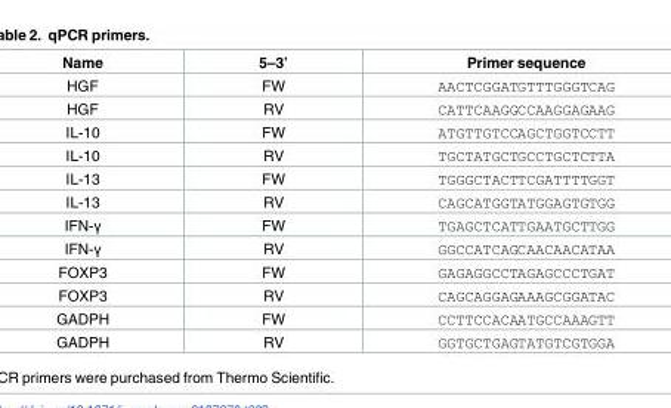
<table><thead><tr><td>Name</td><td>5–3’</td><td>Primer sequence</td></tr></thead><tbody><tr><td>HGF</td><td>FW</td><td>AACTCGGATGTTTGGGTCAG</td></tr><tr><td>HGF</td><td>RV</td><td>CATTCAAGGCCAAGGAGAAG</td></tr><tr><td>IL-10</td><td>FW</td><td>ATGTTGTCCAGCTGGTCCTT</td></tr><tr><td>IL-10</td><td>RV</td><td>TGCTATGCTGCCTGCTCTTA</td></tr><tr><td>IL-13</td><td>FW</td><td>TGGGCTACTTCGATTTTGGT</td></tr><tr><td>IL-13</td><td>RV</td><td>CAGCATGGTATGGAGTGTGG</td></tr><tr><td>IFN-γ</td><td>FW</td><td>TGAGCTCATTGAATGCTTGG</td></tr><tr><td>IFN-γ</td><td>RV</td><td>GGCCATCAGCAACAACATAA</td></tr><tr><td>FOXP3</td><td>FW</td><td>GAGAGGCCTAGAGCCCTGAT</td></tr><tr><td>FOXP3</td><td>RV</td><td>CAGCAGGAGAAAGCGGATAC</td></tr><tr><td>GADPH</td><td>FW</td><td>CCTTCCACAATGCCAAAGTT</td></tr><tr><td>GADPH</td><td>RV</td><td>GGTGCTGAGTATGTCGTGGA</td></tr></tbody></table>